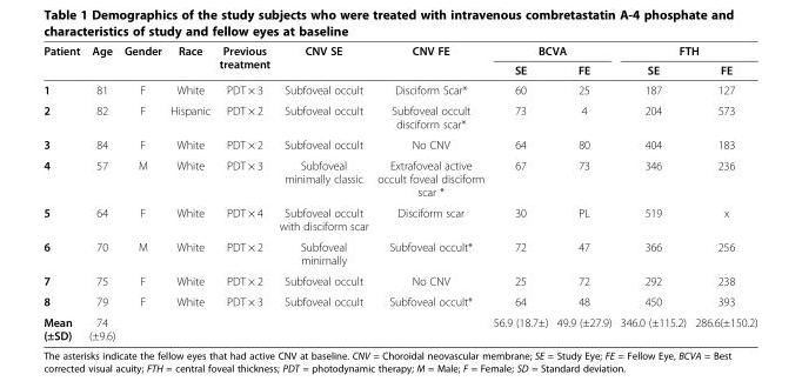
<table><thead><tr><td rowspan="2">Patient</td><td rowspan="2">Age</td><td rowspan="2">Gender</td><td rowspan="2">Race</td><td rowspan="2">Previous treatment</td><td rowspan="2">CNV SE</td><td rowspan="2">CNV FE</td><td colspan="2">BCVA</td><td colspan="2">FTH</td></tr><tr><td>SE</td><td>FE</td><td>SE</td><td>FE</td></tr></thead><tbody><tr><td>1</td><td>81</td><td>F</td><td>White</td><td>PDT × 3</td><td>Subfoveal occult</td><td>Disciform Scar*</td><td>60</td><td>25</td><td>187</td><td>127</td></tr><tr><td>2</td><td>82</td><td>F</td><td>Hispanic</td><td>PDT × 2</td><td>Subfoveal occult</td><td>Subfoveal occult disciform scar*</td><td>73</td><td>4</td><td>204</td><td>573</td></tr><tr><td>3</td><td>84</td><td>F</td><td>White</td><td>PDT × 2</td><td>Subfoveal occult</td><td>No CNV</td><td>64</td><td>80</td><td>404</td><td>183</td></tr><tr><td>4</td><td>57</td><td>M</td><td>White</td><td>PDT × 3</td><td>Subfoveal minimally classic</td><td>Extrafoveal active occult foveal disciform scar *</td><td>67</td><td>73</td><td>346</td><td>236</td></tr><tr><td>5</td><td>64</td><td>F</td><td>White</td><td>PDT × 4</td><td>Subfoveal occult with disciform scar</td><td>Disciform scar</td><td>30</td><td>PL</td><td>519</td><td>x</td></tr><tr><td>6</td><td>70</td><td>M</td><td>White</td><td>PDT × 2</td><td>Subfoveal minimally</td><td>Subfoveal occult*</td><td>72</td><td>47</td><td>366</td><td>256</td></tr><tr><td>7</td><td>75</td><td>F</td><td>White</td><td>PDT × 2</td><td>Subfoveal occult</td><td>No CNV</td><td>25</td><td>72</td><td>292</td><td>238</td></tr><tr><td>8</td><td>79</td><td>F</td><td>White</td><td>PDT × 3</td><td>Subfoveal occult</td><td>Subfoveal occult*</td><td>64</td><td>48</td><td>450</td><td>393</td></tr><tr><td>Mean (±SD)</td><td>74 (±9.6)</td><td></td><td></td><td></td><td></td><td></td><td>56.9 (18.7±)</td><td>49.9 (±27.9)</td><td>346.0 (±115.2)</td><td>286.6(±150.2)</td></tr></tbody></table>